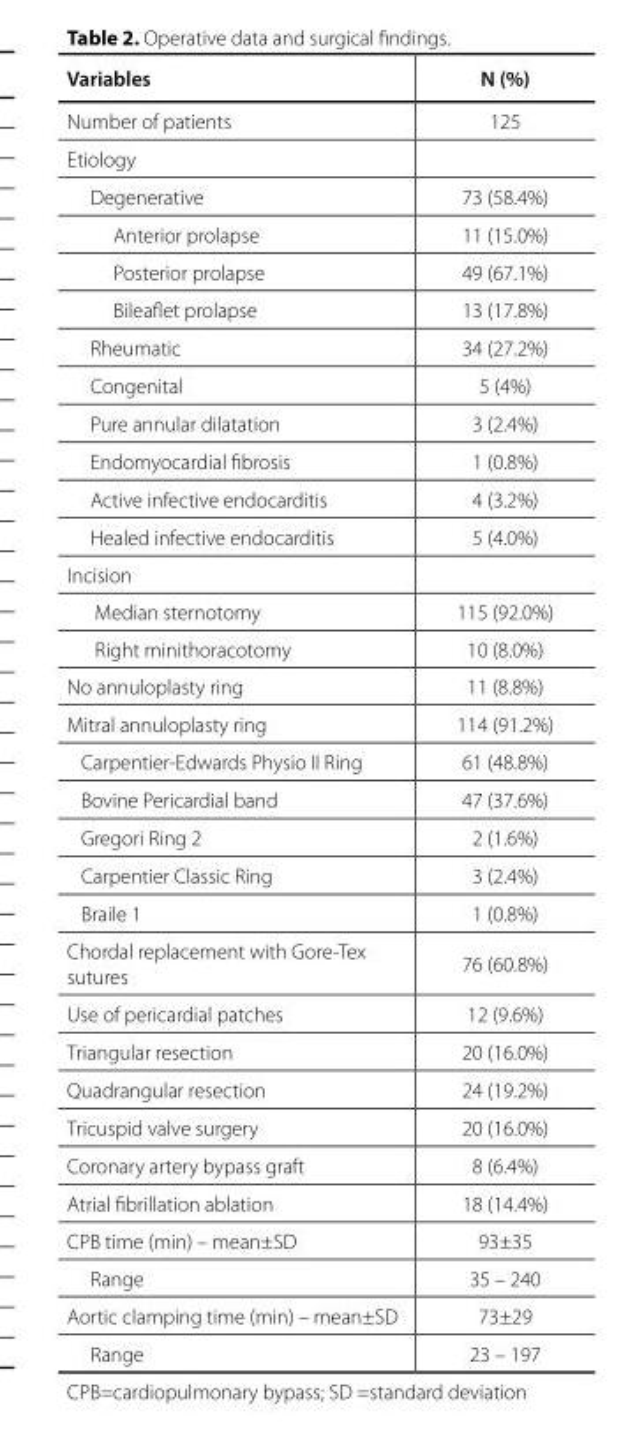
<table><thead><tr><td>Variables</td><td>N (%)</td></tr></thead><tbody><tr><td>Number of patients</td><td>125</td></tr><tr><td colspan="2">Etiology</td></tr><tr><td>Degenerative</td><td>73 (58.4%)</td></tr><tr><td>Anterior prolapse</td><td>11 (15.0%)</td></tr><tr><td>Posterior prolapse</td><td>49 (67.1%)</td></tr><tr><td>Bileaflet prolapse</td><td>13 (17.8%)</td></tr><tr><td>Rheumatic</td><td>34 (27.2%)</td></tr><tr><td>Congenital</td><td>5 (4%)</td></tr><tr><td>Pure annular dilatation</td><td>3 (2.4%)</td></tr><tr><td>Endomyocardial fibrosis</td><td>1 (0.8%)</td></tr><tr><td>Active infective endocarditis</td><td>4 (3.2%)</td></tr><tr><td>Healed infective endocarditis</td><td>5 (4.0%)</td></tr><tr><td colspan="2">Incision</td></tr><tr><td>Median sternotomy</td><td>115 (92.0%)</td></tr><tr><td>Right minithoracotomy</td><td>10 (8.0%)</td></tr><tr><td>No annuloplasty ring</td><td>11 (8.8%)</td></tr><tr><td>Mitral annuloplasty ring</td><td>114 (91.2%)</td></tr><tr><td>Carpentier-Edwards Physio II Ring</td><td>61 (48.8%)</td></tr><tr><td>Bovine Pericardial band</td><td>47 (37.6%)</td></tr><tr><td>Gregori Ring 2</td><td>2 (1.6%)</td></tr><tr><td>Carpentier Classic Ring</td><td>3 (2.4%)</td></tr><tr><td>Braile 1</td><td>1 (0.8%)</td></tr><tr><td>Chordal replacement with Gore-Tex sutures</td><td>76 (60.8%)</td></tr><tr><td>Use of pericardial patches</td><td>12 (9.6%)</td></tr><tr><td>Triangular resection</td><td>20 (16.0%)</td></tr><tr><td>Quadrangular resection</td><td>24 (19.2%)</td></tr><tr><td>Tricuspid valve surgery</td><td>20 (16.0%)</td></tr><tr><td>Coronary artery bypass graft</td><td>8 (6.4%)</td></tr><tr><td>Atrial fibrillation ablation</td><td>18 (14.4%)</td></tr><tr><td>CPB time (min) – mean±SD</td><td>93±35</td></tr><tr><td>Range</td><td>35 – 240</td></tr><tr><td>Aortic clamping time (min) – mean±SD</td><td>73±29</td></tr><tr><td>Range</td><td>23 – 197</td></tr></tbody></table>